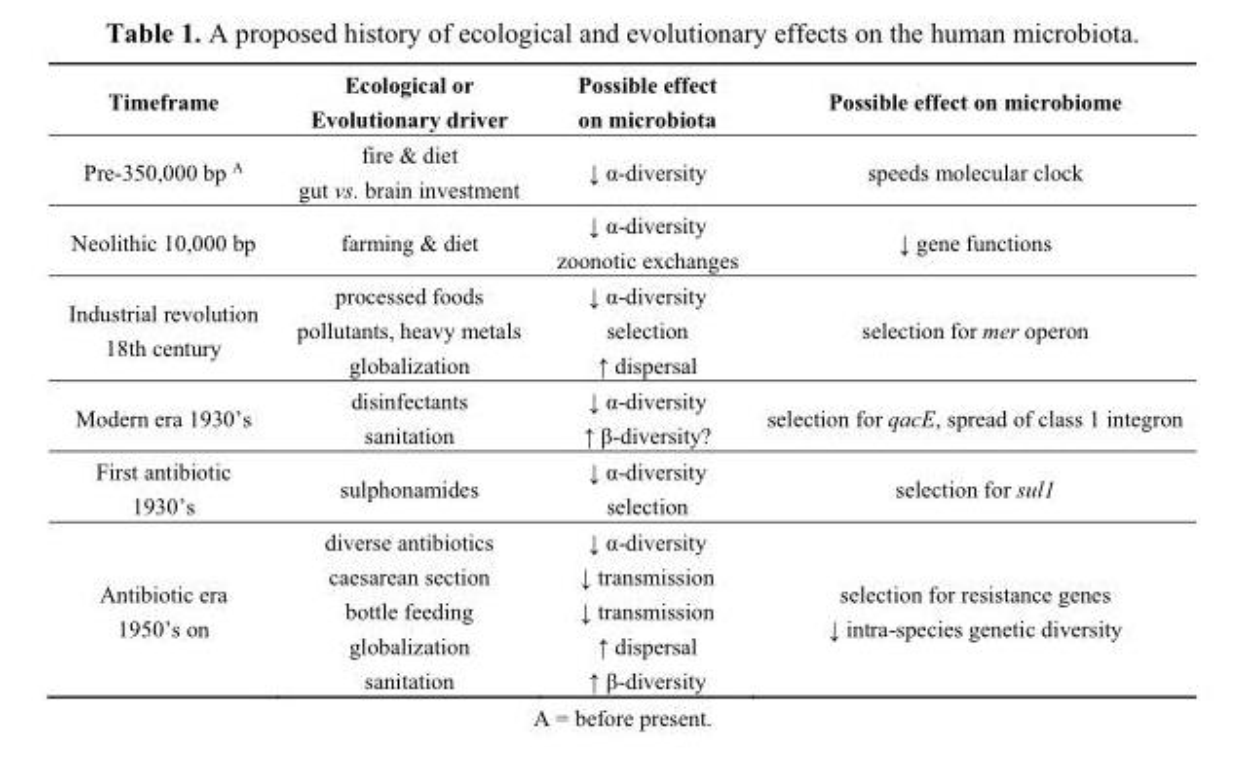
<table><thead><tr><td>Timeframe</td><td>Ecological or Evolutionary driver</td><td>Possible effect on microbiota</td><td>Possible effect on microbiome</td></tr></thead><tbody><tr><td>Pre-350,000 bp <sup>A</sup></td><td>fire &amp; diet gut vs. brain investment</td><td>↓ α-diversity</td><td>speeds molecular clock</td></tr><tr><td>Neolithic 10,000 bp</td><td>farming &amp; diet</td><td>↓ α-diversity zoonotic exchanges</td><td>↓ gene functions</td></tr><tr><td>Industrial revolution 18th century</td><td>processed foods pollutants, heavy metals globalization</td><td>↓ α-diversity selection ↑ dispersal</td><td>selection for mer operon</td></tr><tr><td>Modern era 1930’s</td><td>disinfectants sanitation</td><td>↓ α-diversity ↑ β-diversity?</td><td>selection for qacE, spread of class 1 integron</td></tr><tr><td>First antibiotic 1930’s</td><td>sulphonamides</td><td>↓ α-diversity selection</td><td>selection for sul1</td></tr><tr><td>Antibiotic era 1950’s on</td><td>diverse antibiotics caesarean section bottle feeding globalization sanitation</td><td>↓ α-diversity ↓ transmission ↓ transmission ↑ dispersal ↑ β-diversity</td><td>selection for resistance genes ↓ intra-species genetic diversity</td></tr></tbody></table>